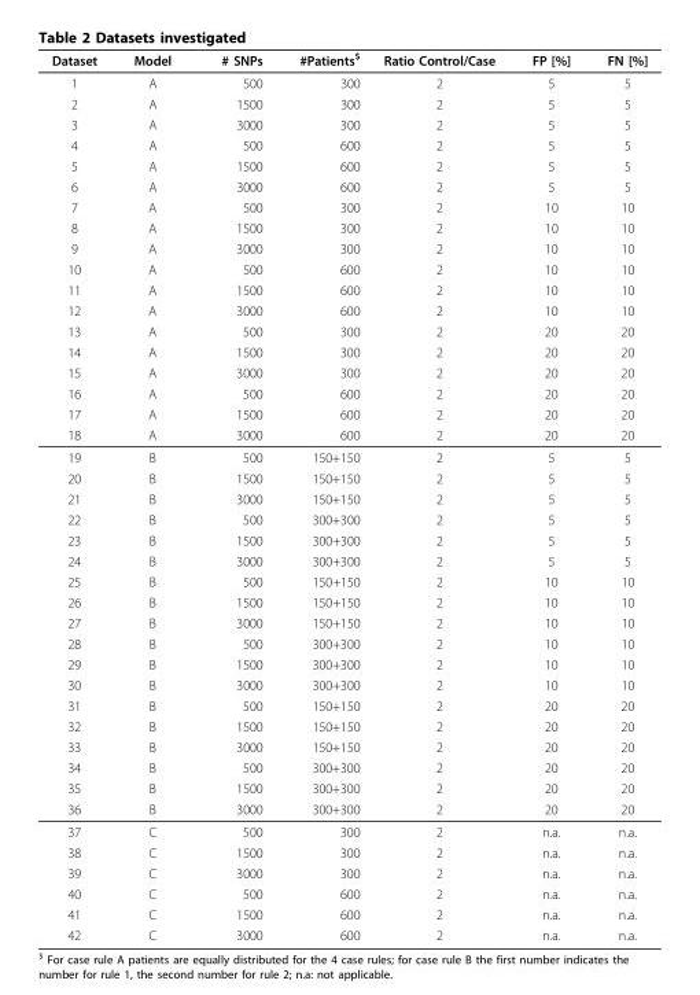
<table><thead><tr><td>Dataset</td><td>Model</td><td># SNPs</td><td>#Patients$</td><td>Ratio Control/Case</td><td>FP [%]</td><td>FN [%]</td></tr></thead><tbody><tr><td>1</td><td>A</td><td>500</td><td>300</td><td>2</td><td>5</td><td>5</td></tr><tr><td>2</td><td>A</td><td>1500</td><td>300</td><td>2</td><td>5</td><td>5</td></tr><tr><td>3</td><td>A</td><td>3000</td><td>300</td><td>2</td><td>5</td><td>5</td></tr><tr><td>4</td><td>A</td><td>500</td><td>600</td><td>2</td><td>5</td><td>5</td></tr><tr><td>5</td><td>A</td><td>1500</td><td>600</td><td>2</td><td>5</td><td>5</td></tr><tr><td>6</td><td>A</td><td>3000</td><td>600</td><td>2</td><td>5</td><td>5</td></tr><tr><td>7</td><td>A</td><td>500</td><td>300</td><td>2</td><td>10</td><td>10</td></tr><tr><td>8</td><td>A</td><td>1500</td><td>300</td><td>2</td><td>10</td><td>10</td></tr><tr><td>9</td><td>A</td><td>3000</td><td>300</td><td>2</td><td>10</td><td>10</td></tr><tr><td>10</td><td>A</td><td>500</td><td>600</td><td>2</td><td>10</td><td>10</td></tr><tr><td>11</td><td>A</td><td>1500</td><td>600</td><td>2</td><td>10</td><td>10</td></tr><tr><td>12</td><td>A</td><td>3000</td><td>600</td><td>2</td><td>10</td><td>10</td></tr><tr><td>13</td><td>A</td><td>500</td><td>300</td><td>2</td><td>20</td><td>20</td></tr><tr><td>14</td><td>A</td><td>1500</td><td>300</td><td>2</td><td>20</td><td>20</td></tr><tr><td>15</td><td>A</td><td>3000</td><td>300</td><td>2</td><td>20</td><td>20</td></tr><tr><td>16</td><td>A</td><td>500</td><td>600</td><td>2</td><td>20</td><td>20</td></tr><tr><td>17</td><td>A</td><td>1500</td><td>600</td><td>2</td><td>20</td><td>20</td></tr><tr><td>18</td><td>A</td><td>3000</td><td>600</td><td>2</td><td>20</td><td>20</td></tr><tr><td>19</td><td>B</td><td>500</td><td>150+150</td><td>2</td><td>5</td><td>5</td></tr><tr><td>20</td><td>B</td><td>1500</td><td>150+150</td><td>2</td><td>5</td><td>5</td></tr><tr><td>21</td><td>B</td><td>3000</td><td>150+150</td><td>2</td><td>5</td><td>5</td></tr><tr><td>22</td><td>B</td><td>500</td><td>300+300</td><td>2</td><td>5</td><td>5</td></tr><tr><td>23</td><td>B</td><td>1500</td><td>300+300</td><td>2</td><td>5</td><td>5</td></tr><tr><td>24</td><td>B</td><td>3000</td><td>300+300</td><td>2</td><td>5</td><td>5</td></tr><tr><td>25</td><td>B</td><td>500</td><td>150+150</td><td>2</td><td>10</td><td>10</td></tr><tr><td>26</td><td>B</td><td>1500</td><td>150+150</td><td>2</td><td>10</td><td>10</td></tr><tr><td>27</td><td>B</td><td>3000</td><td>150+150</td><td>2</td><td>10</td><td>10</td></tr><tr><td>28</td><td>B</td><td>500</td><td>300+300</td><td>2</td><td>10</td><td>10</td></tr><tr><td>29</td><td>B</td><td>1500</td><td>300+300</td><td>2</td><td>10</td><td>10</td></tr><tr><td>30</td><td>B</td><td>3000</td><td>300+300</td><td>2</td><td>10</td><td>10</td></tr><tr><td>31</td><td>B</td><td>500</td><td>150+150</td><td>2</td><td>20</td><td>20</td></tr><tr><td>32</td><td>B</td><td>1500</td><td>150+150</td><td>2</td><td>20</td><td>20</td></tr><tr><td>33</td><td>B</td><td>3000</td><td>150+150</td><td>2</td><td>20</td><td>20</td></tr><tr><td>34</td><td>B</td><td>500</td><td>300+300</td><td>2</td><td>20</td><td>20</td></tr><tr><td>35</td><td>B</td><td>1500</td><td>300+300</td><td>2</td><td>20</td><td>20</td></tr><tr><td>36</td><td>B</td><td>3000</td><td>300+300</td><td>2</td><td>20</td><td>20</td></tr><tr><td>37</td><td>C</td><td>500</td><td>300</td><td>2</td><td>n.a.</td><td>n.a.</td></tr><tr><td>38</td><td>C</td><td>1500</td><td>300</td><td>2</td><td>n.a.</td><td>n.a.</td></tr><tr><td>39</td><td>C</td><td>3000</td><td>300</td><td>2</td><td>n.a.</td><td>n.a.</td></tr><tr><td>40</td><td>C</td><td>500</td><td>600</td><td>2</td><td>n.a.</td><td>n.a.</td></tr><tr><td>41</td><td>C</td><td>1500</td><td>600</td><td>2</td><td>n.a.</td><td>n.a.</td></tr><tr><td>42</td><td>C</td><td>3000</td><td>600</td><td>2</td><td>n.a.</td><td>n.a.</td></tr></tbody></table>